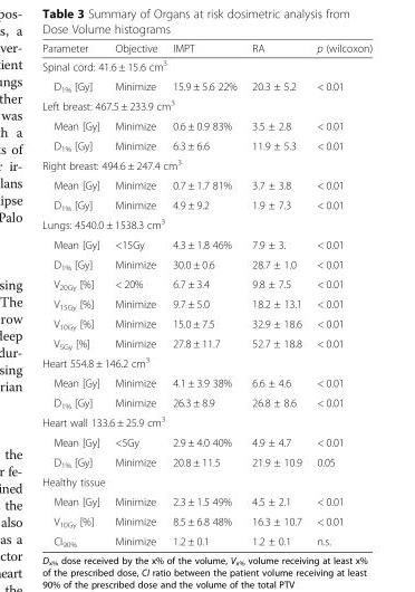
<table><thead><tr><td>Parameter</td><td>Objective</td><td>IMPT</td><td>RA</td><td>p (wilcoxon)</td></tr></thead><tbody><tr><td colspan="5">Spinal cord: 41.6 ± 15.6 cm<sup>3</sup></td></tr><tr><td>D<sub>1%</sub> [Gy]</td><td>Minimize</td><td>15.9 ± 5.6 22%</td><td>20.3 ± 5.2</td><td>&lt; 0.01</td></tr><tr><td colspan="5">Left breast: 467.5 ± 233.9 cm<sup>3</sup></td></tr><tr><td>Mean [Gy]</td><td>Minimize</td><td>0.6 ± 0.9 83%</td><td>3.5 ± 2.8</td><td>&lt; 0.01</td></tr><tr><td>D<sub>1%</sub> [Gy]</td><td>Minimize</td><td>6.3 ± 6.6</td><td>11.9 ± 5.3</td><td>&lt; 0.01</td></tr><tr><td colspan="5">Right breast: 494.6 ± 247.4 cm<sup>3</sup></td></tr><tr><td>Mean [Gy]</td><td>Minimize</td><td>0.7 ± 1.7 81%</td><td>3.7 ± 3.8</td><td>&lt; 0.01</td></tr><tr><td>D<sub>1%</sub> [Gy]</td><td>Minimize</td><td>4.9 ± 9.2</td><td>1.9 ± 7.3</td><td>&lt; 0.01</td></tr><tr><td colspan="5">Lungs: 4540.0 ± 1538.3 cm<sup>3</sup></td></tr><tr><td>Mean [Gy]</td><td>&lt;15Gy</td><td>4.3 ± 1.8 46%</td><td>7.9 ± 3.</td><td>&lt; 0.01</td></tr><tr><td>D<sub>1%</sub> [Gy]</td><td>Minimize</td><td>30.0 ± 0.6</td><td>28.7 ± 1.0</td><td>&lt; 0.01</td></tr><tr><td>V<sub>20Gy</sub> [%]</td><td>&lt; 20%</td><td>6.7 ± 3.4</td><td>9.8 ± 7.5</td><td>&lt; 0.01</td></tr><tr><td>V<sub>15Gy</sub> [%]</td><td>Minimize</td><td>9.7 ± 5.0</td><td>18.2 ± 13.1</td><td>&lt; 0.01</td></tr><tr><td>V<sub>10Gy</sub> [%]</td><td>Minimize</td><td>15.0 ± 7.5</td><td>32.9 ± 18.6</td><td>&lt; 0.01</td></tr><tr><td>V<sub>5Gy</sub> [%]</td><td>Minimize</td><td>27.8 ± 11.7</td><td>52.7 ± 18.8</td><td>&lt; 0.01</td></tr><tr><td colspan="5">Heart 554.8 ± 146.2 cm<sup>3</sup></td></tr><tr><td>Mean [Gy]</td><td>Minimize</td><td>4.1 ± 3.9 38%</td><td>6.6 ± 4.6</td><td>&lt; 0.01</td></tr><tr><td>D<sub>1%</sub> [Gy]</td><td>Minimize</td><td>26.3 ± 8.9</td><td>26.8 ± 8.6</td><td>&lt; 0.01</td></tr><tr><td colspan="5">Heart wall 133.6 ± 25.9 cm<sup>3</sup></td></tr><tr><td>Mean [Gy]</td><td>&lt;5Gy</td><td>2.9 ± 4.0 40%</td><td>4.9 ± 4.7</td><td>&lt; 0.01</td></tr><tr><td>D<sub>1%</sub> [Gy]</td><td>Minimize</td><td>20.8 ± 11.5</td><td>21.9 ± 10.9</td><td>0.05</td></tr><tr><td colspan="5">Healthy tissue</td></tr><tr><td>Mean [Gy]</td><td>Minimize</td><td>2.3 ± 1.5 49%</td><td>4.5 ± 2.1</td><td>&lt; 0.01</td></tr><tr><td>V<sub>10Gy</sub> [%]</td><td>Minimize</td><td>8.5 ± 6.8 48%</td><td>16.3 ± 10.7</td><td>&lt; 0.01</td></tr><tr><td>CI<sub>90%</sub></td><td>Minimize</td><td>1.2 ± 0.1</td><td>1.2 ± 0.1</td><td>n.s.</td></tr></tbody></table>